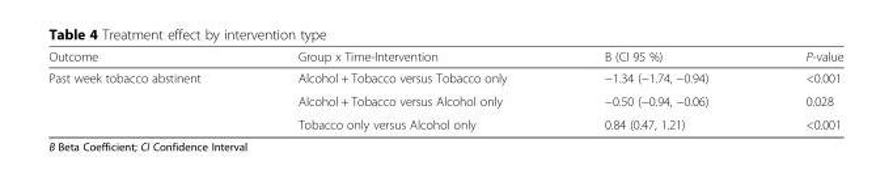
<table><thead><tr><td>Outcome</td><td>Group x Time-Intervention</td><td>B (CI 95 %)</td><td>P-value</td></tr></thead><tbody><tr><td rowspan="3">Past week tobacco abstinent</td><td>Alcohol + Tobacco versus Tobacco only</td><td>−1.34 (−1.74, −0.94)</td><td>&lt;0.001</td></tr><tr><td>Alcohol + Tobacco versus Alcohol only</td><td>−0.50 (−0.94, −0.06)</td><td>0.028</td></tr><tr><td>Tobacco only versus Alcohol only</td><td>0.84 (0.47, 1.21)</td><td>&lt;0.001</td></tr></tbody></table>